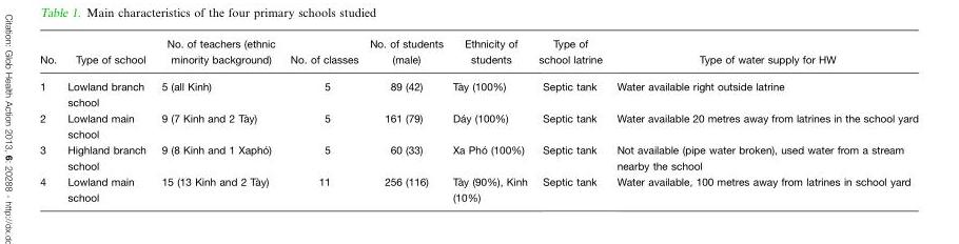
<table><thead><tr><td>No.</td><td>Type of school</td><td>No. of teachers (ethnic minority background)</td><td>No. of classes</td><td>No. of students (male)</td><td>Ethnicity of students</td><td>Type of school latrine</td><td>Type of water supply for HW</td></tr></thead><tbody><tr><td>1</td><td>Lowland branch school</td><td>5 (all Kinh)</td><td>5</td><td>89 (42)</td><td>Ta` y (100%)</td><td>Septic tank</td><td>Water available right outside latrine</td></tr><tr><td>2</td><td>Lowland main school</td><td>9 (7 Kinh and 2 Ta` y)</td><td>5</td><td>161 (79)</td><td>Da´ y (100%)</td><td>Septic tank</td><td>Water available 20 metres away from latrines in the school yard</td></tr><tr><td>3</td><td>Highland branch school</td><td>9 (8 Kinh and 1 Xapho´ )</td><td>5</td><td>60 (33)</td><td>Xa Pho´ (100%)</td><td>Septic tank</td><td>Not available (pipe water broken), used water from a stream nearby the school</td></tr><tr><td>4</td><td>Lowland main school</td><td>15 (13 Kinh and 2 Ta` y)</td><td>11</td><td>256 (116)</td><td>Ta` y (90%), Kinh (10%)</td><td>Septic tank</td><td>Water available, 100 metres away from latrines in school yard</td></tr></tbody></table>